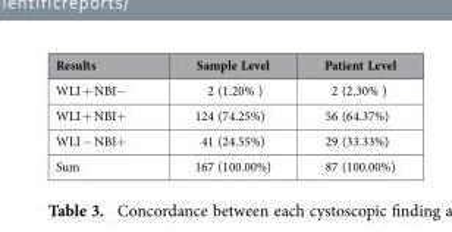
<table><thead><tr><td>Results</td><td>Sample Level</td><td>Patient Level</td></tr></thead><tbody><tr><td>WLI + NBI−</td><td>2 (1.20% )</td><td>2 (2.30% )</td></tr><tr><td>WLI + NBI+</td><td>124 (74.25%)</td><td>56 (64.37%)</td></tr><tr><td>WLI − NBI+</td><td>41 (24.55%)</td><td>29 (33.33%)</td></tr><tr><td>Sum</td><td>167 (100.00%)</td><td>87 (100.00%)</td></tr></tbody></table>